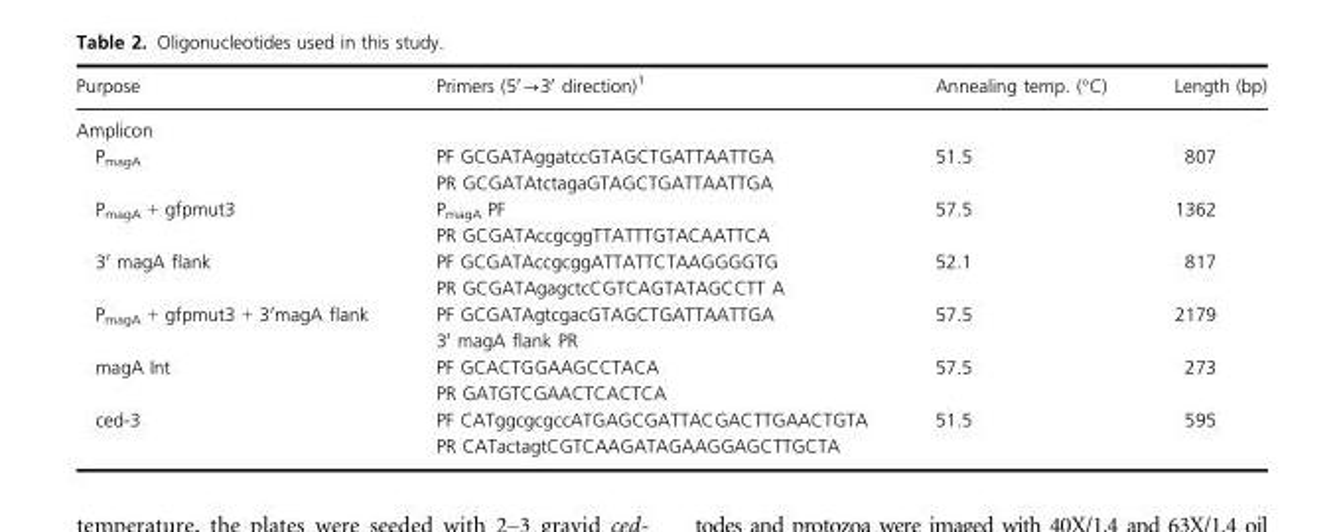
<table><thead><tr><td>Purpose</td><td>Primers (5′→3′ direction)<sup>1</sup></td><td>Annealing temp. (°C)</td><td>Length (bp)</td></tr></thead><tbody><tr><td colspan="4">Amplicon</td></tr><tr><td rowspan="2">P<sub>magA</sub></td><td>PF GCGATAggatccGTAGCTGATTAATTGA</td><td>51.5</td><td>807</td></tr><tr><td>PR GCGATAtctagaGTAGCTGATTAATTGA</td><td></td><td></td></tr><tr><td rowspan="2">P<sub>magA</sub> + gfpmut3</td><td>P<sub>magA</sub> PF</td><td>57.5</td><td>1362</td></tr><tr><td>PR GCGATAccgcggTTATTTGTACAATTCA</td><td></td><td></td></tr><tr><td rowspan="2">3′ magA flank</td><td>PF GCGATAccgcggATTATTCTAAGGGGTG</td><td>52.1</td><td>817</td></tr><tr><td>PR GCGATAgagctcCGTCAGTATAGCCTT A</td><td></td><td></td></tr><tr><td rowspan="2">P<sub>magA</sub> + gfpmut3 + 3′magA flank</td><td>PF GCGATAgtcgacGTAGCTGATTAATTGA</td><td>57.5</td><td>2179</td></tr><tr><td>3′ magA flank PR</td><td></td><td></td></tr><tr><td rowspan="2">magA Int</td><td>PF GCACTGGAAGCCTACA</td><td>57.5</td><td>273</td></tr><tr><td>PR GATGTCGAACTCACTCA</td><td></td><td></td></tr><tr><td rowspan="2">ced-3</td><td>PF CATggcgcgccATGAGCGATTACGACTTGAACTGTA</td><td>51.5</td><td>595</td></tr><tr><td>PR CATactagtCGTCAAGATAGAAGGAGCTTGCTA</td><td></td><td></td></tr></tbody></table>